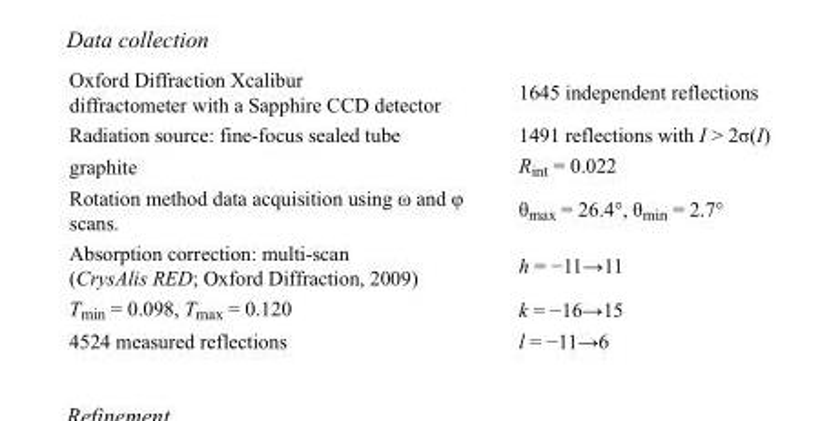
<table><tbody><tr><td>Oxford Diffraction Xcalibur diffractometer with a Sapphire CCD detector</td><td>1645 independent reflections</td></tr><tr><td>Radiation source: fine-focus sealed tube</td><td>1491 reflections with I &gt; 2σ(I)</td></tr><tr><td>graphite</td><td>R<sub>int</sub> = 0.022</td></tr><tr><td>Rotation method data acquisition using ω and φ scans.</td><td>θ<sub>max</sub> = 26.4°, θ<sub>min</sub> = 2.7°</td></tr><tr><td>Absorption correction: multi-scan (CrysAlis RED; Oxford Diffraction, 2009)</td><td>h = −11→11</td></tr><tr><td>T<sub>min</sub> = 0.098, T<sub>max</sub> = 0.120</td><td>k = −16→15</td></tr><tr><td>4524 measured reflections</td><td>l = −11→6</td></tr></tbody></table>